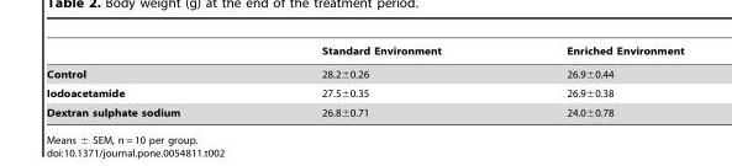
<table><thead><tr><td></td><td>Standard Environment</td><td>Enriched Environment</td></tr></thead><tbody><tr><td>Control</td><td>28.2±0.26</td><td>26.9±0.44</td></tr><tr><td>Iodoacetamide</td><td>27.5±0.35</td><td>26.9±0.38</td></tr><tr><td>Dextran sulphate sodium</td><td>26.8±0.71</td><td>24.0±0.78</td></tr></tbody></table>